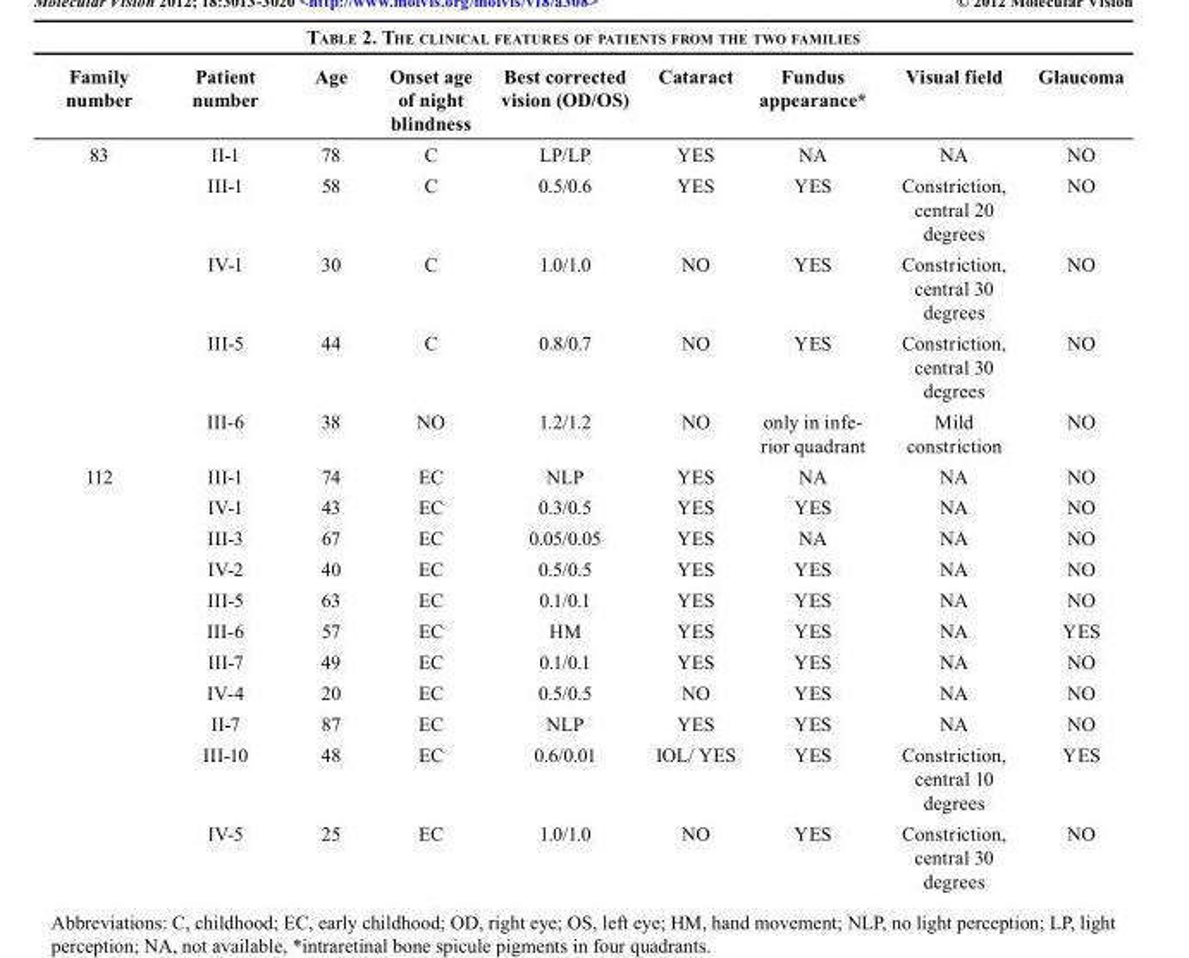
<table><thead><tr><td>Family number</td><td>Patient number</td><td>Age</td><td>Onset age of night blindness</td><td>Best corrected vision (OD/OS)</td><td>Cataract</td><td>Fundus appearance*</td><td>Visual field</td><td>Glaucoma</td></tr></thead><tbody><tr><td rowspan="5">83</td><td>II-1</td><td>78</td><td>C</td><td>LP/LP</td><td>YES</td><td>NA</td><td>NA</td><td>NO</td></tr><tr><td>III-1</td><td>58</td><td>C</td><td>0.5/0.6</td><td>YES</td><td>YES</td><td>Constriction, central 20 degrees</td><td>NO</td></tr><tr><td>IV-1</td><td>30</td><td>C</td><td>1.0/1.0</td><td>NO</td><td>YES</td><td>Constriction, central 30 degrees</td><td>NO</td></tr><tr><td>III-5</td><td>44</td><td>C</td><td>0.8/0.7</td><td>NO</td><td>YES</td><td>Constriction, central 30 degrees</td><td>NO</td></tr><tr><td>III-6</td><td>38</td><td>NO</td><td>1.2/1.2</td><td>NO</td><td>only in infe- rior quadrant</td><td>Mild constriction</td><td>NO</td></tr><tr><td rowspan="11">112</td><td>III-1</td><td>74</td><td>EC</td><td>NLP</td><td>YES</td><td>NA</td><td>NA</td><td>NO</td></tr><tr><td>IV-1</td><td>43</td><td>EC</td><td>0.3/0.5</td><td>YES</td><td>YES</td><td>NA</td><td>NO</td></tr><tr><td>III-3</td><td>67</td><td>EC</td><td>0.05/0.05</td><td>YES</td><td>NA</td><td>NA</td><td>NO</td></tr><tr><td>IV-2</td><td>40</td><td>EC</td><td>0.5/0.5</td><td>YES</td><td>YES</td><td>NA</td><td>NO</td></tr><tr><td>III-5</td><td>63</td><td>EC</td><td>0.1/0.1</td><td>YES</td><td>YES</td><td>NA</td><td>NO</td></tr><tr><td>III-6</td><td>57</td><td>EC</td><td>HM</td><td>YES</td><td>YES</td><td>NA</td><td>YES</td></tr><tr><td>III-7</td><td>49</td><td>EC</td><td>0.1/0.1</td><td>YES</td><td>YES</td><td>NA</td><td>NO</td></tr><tr><td>IV-4</td><td>20</td><td>EC</td><td>0.5/0.5</td><td>NO</td><td>YES</td><td>NA</td><td>NO</td></tr><tr><td>II-7</td><td>87</td><td>EC</td><td>NLP</td><td>YES</td><td>YES</td><td>NA</td><td>NO</td></tr><tr><td>III-10</td><td>48</td><td>EC</td><td>0.6/0.01</td><td>IOL/ YES</td><td>YES</td><td>Constriction, central 10 degrees</td><td>YES</td></tr><tr><td>IV-5</td><td>25</td><td>EC</td><td>1.0/1.0</td><td>NO</td><td>YES</td><td>Constriction, central 30 degrees</td><td>NO</td></tr></tbody></table>